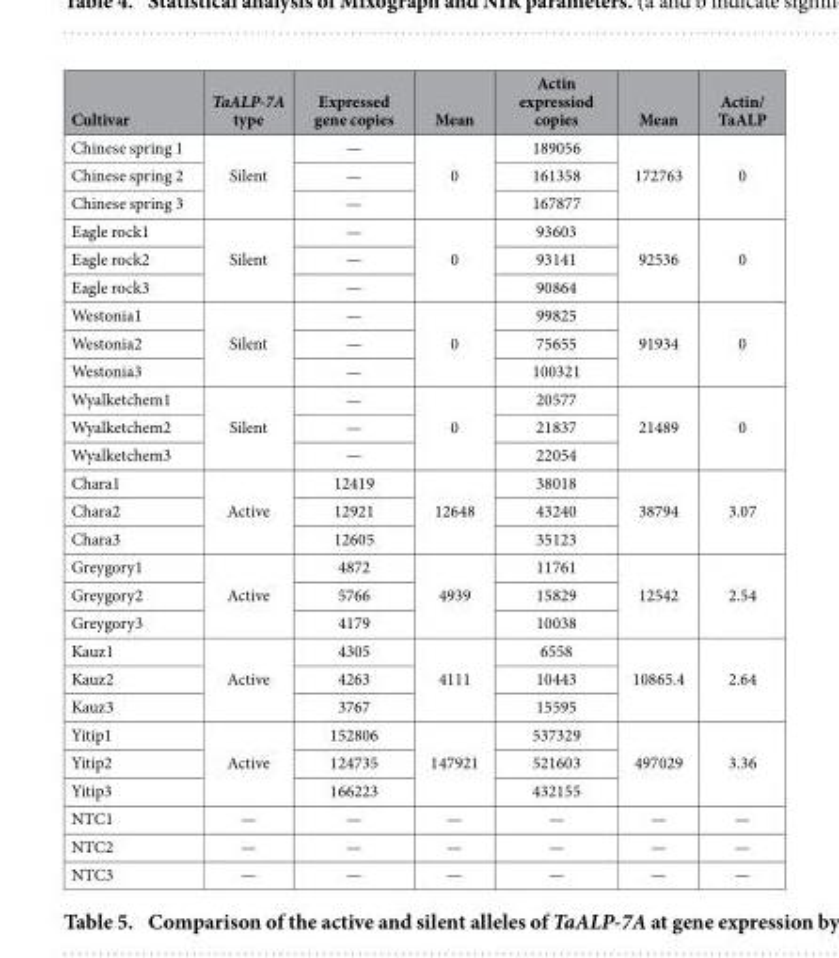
<table><thead><tr><td>Cultivar</td><td>TaALP-7A type</td><td>Expressed gene copies</td><td>Mean</td><td>Actin expressiod copies</td><td>Mean</td><td>Actin/ TaALP</td></tr></thead><tbody><tr><td>Chinese spring 1</td><td rowspan="3">Silent</td><td>—</td><td rowspan="3">0</td><td>189056</td><td rowspan="3">172763</td><td rowspan="3">0</td></tr><tr><td>Chinese spring 2</td><td>—</td><td>161358</td></tr><tr><td>Chinese spring 3</td><td>—</td><td>167877</td></tr><tr><td>Eagle rock1</td><td rowspan="3">Silent</td><td>—</td><td rowspan="3">0</td><td>93603</td><td rowspan="3">92536</td><td rowspan="3">0</td></tr><tr><td>Eagle rock2</td><td>—</td><td>93141</td></tr><tr><td>Eagle rock3</td><td>—</td><td>90864</td></tr><tr><td>Westonia1</td><td rowspan="3">Silent</td><td>—</td><td rowspan="3">0</td><td>99825</td><td rowspan="3">91934</td><td rowspan="3">0</td></tr><tr><td>Westonia2</td><td>—</td><td>75655</td></tr><tr><td>Westonia3</td><td>—</td><td>100321</td></tr><tr><td>Wyalketchem1</td><td rowspan="3">Silent</td><td>—</td><td rowspan="3">0</td><td>20577</td><td rowspan="3">21489</td><td rowspan="3">0</td></tr><tr><td>Wyalketchem2</td><td>—</td><td>21837</td></tr><tr><td>Wyalketchem3</td><td>—</td><td>22054</td></tr><tr><td>Chara1</td><td rowspan="3">Active</td><td>12419</td><td rowspan="3">12648</td><td>38018</td><td rowspan="3">38794</td><td rowspan="3">3.07</td></tr><tr><td>Chara2</td><td>12921</td><td>43240</td></tr><tr><td>Chara3</td><td>12605</td><td>35123</td></tr><tr><td>Greygory1</td><td rowspan="3">Active</td><td>4872</td><td rowspan="3">4939</td><td>11761</td><td rowspan="3">12542</td><td rowspan="3">2.54</td></tr><tr><td>Greygory2</td><td>5766</td><td>15829</td></tr><tr><td>Greygory3</td><td>4179</td><td>10038</td></tr><tr><td>Kauz1</td><td rowspan="3">Active</td><td>4305</td><td rowspan="3">4111</td><td>6558</td><td rowspan="3">10865.4</td><td rowspan="3">2.64</td></tr><tr><td>Kauz2</td><td>4263</td><td>10443</td></tr><tr><td>Kauz3</td><td>3767</td><td>15595</td></tr><tr><td>Yitip1</td><td rowspan="3">Active</td><td>152806</td><td rowspan="3">147921</td><td>537329</td><td rowspan="3">497029</td><td rowspan="3">3.36</td></tr><tr><td>Yitip2</td><td>124735</td><td>521603</td></tr><tr><td>Yitip3</td><td>166223</td><td>432155</td></tr><tr><td>NTC1</td><td>—</td><td>—</td><td>—</td><td>—</td><td>—</td><td>—</td></tr><tr><td>NTC2</td><td>—</td><td>—</td><td>—</td><td>—</td><td>—</td><td>—</td></tr><tr><td>NTC3</td><td>—</td><td>—</td><td>—</td><td>—</td><td>—</td><td>—</td></tr></tbody></table>